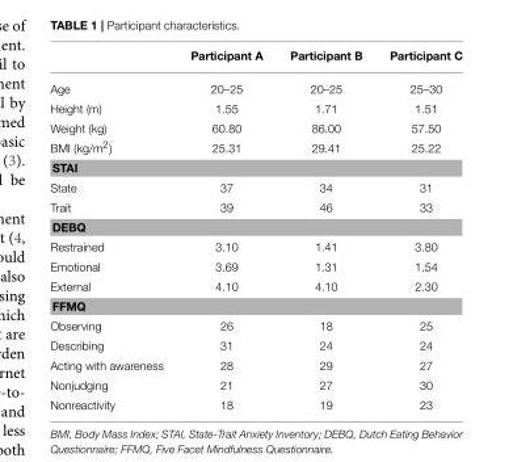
<table><thead><tr><td></td><td>Participant A</td><td>Participant B</td><td>Participant C</td></tr></thead><tbody><tr><td>Age</td><td>20–25</td><td>20–25</td><td>25–30</td></tr><tr><td>Height (m)</td><td>1.55</td><td>1.71</td><td>1.51</td></tr><tr><td>Weight (kg)</td><td>60.80</td><td>86.00</td><td>57.50</td></tr><tr><td>BMI (kg/m<sup>2</sup>)</td><td>25.31</td><td>29.41</td><td>25.22</td></tr><tr><td colspan="4">STAI</td></tr><tr><td>State</td><td>37</td><td>34</td><td>31</td></tr><tr><td>Trait</td><td>39</td><td>46</td><td>33</td></tr><tr><td colspan="4">DEBQ</td></tr><tr><td>Restrained</td><td>3.10</td><td>1.41</td><td>3.80</td></tr><tr><td>Emotional</td><td>3.69</td><td>1.31</td><td>1.54</td></tr><tr><td>External</td><td>4.10</td><td>4.10</td><td>2.30</td></tr><tr><td colspan="4">FFMQ</td></tr><tr><td>Observing</td><td>26</td><td>18</td><td>25</td></tr><tr><td>Describing</td><td>31</td><td>24</td><td>24</td></tr><tr><td>Acting with awareness</td><td>28</td><td>29</td><td>27</td></tr><tr><td>Nonjudging</td><td>21</td><td>27</td><td>30</td></tr><tr><td>Nonreactivity</td><td>18</td><td>19</td><td>23</td></tr></tbody></table>